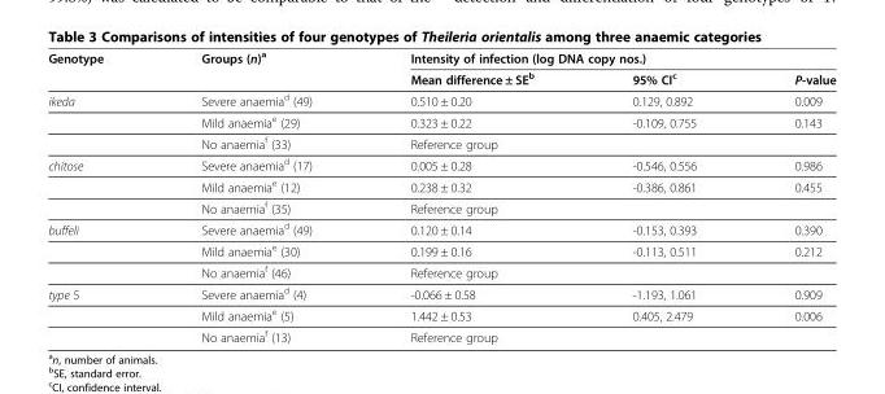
<table><thead><tr><td rowspan="2">Genotype</td><td rowspan="2">Groups (n)<sup>a</sup></td><td colspan="3">Intensity of infection (log DNA copy nos.)</td></tr><tr><td>Mean difference ± SE<sup>b</sup></td><td>95% CI<sup>c</sup></td><td>P-value</td></tr></thead><tbody><tr><td rowspan="3">ikeda</td><td>Severe anaemia<sup>d</sup> (49)</td><td>0.510 ± 0.20</td><td>0.129, 0.892</td><td>0.009</td></tr><tr><td>Mild anaemia<sup>e</sup> (29)</td><td>0.323 ± 0.22</td><td>-0.109, 0.755</td><td>0.143</td></tr><tr><td>No anaemia<sup>f</sup> (33)</td><td>Reference group</td><td></td><td></td></tr><tr><td rowspan="3">chitose</td><td>Severe anaemia<sup>d</sup> (17)</td><td>0.005 ± 0.28</td><td>-0.546, 0.556</td><td>0.986</td></tr><tr><td>Mild anaemia<sup>e</sup> (12)</td><td>0.238 ± 0.32</td><td>-0.386, 0.861</td><td>0.455</td></tr><tr><td>No anaemia<sup>f</sup> (35)</td><td>Reference group</td><td></td><td></td></tr><tr><td rowspan="3">buffeli</td><td>Severe anaemia<sup>d</sup> (49)</td><td>0.120 ± 0.14</td><td>-0.153, 0.393</td><td>0.390</td></tr><tr><td>Mild anaemia<sup>e</sup> (30)</td><td>0.199 ± 0.16</td><td>-0.113, 0.511</td><td>0.212</td></tr><tr><td>No anaemia<sup>f</sup> (46)</td><td>Reference group</td><td></td><td></td></tr><tr><td rowspan="3">type 5</td><td>Severe anaemia<sup>d</sup> (4)</td><td>-0.066 ± 0.58</td><td>-1.193, 1.061</td><td>0.909</td></tr><tr><td>Mild anaemia<sup>e</sup> (5)</td><td>1.442 ± 0.53</td><td>0.405, 2.479</td><td>0.006</td></tr><tr><td>No anaemia<sup>f</sup> (13)</td><td>Reference group</td><td></td><td></td></tr></tbody></table>